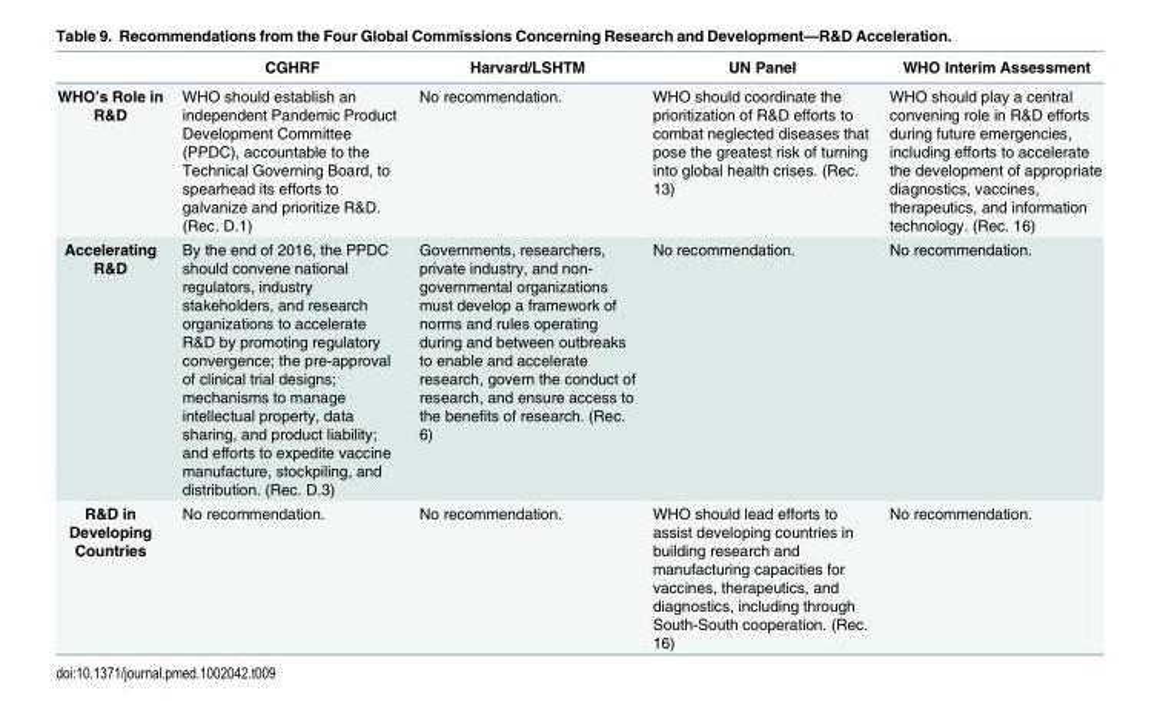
<table><thead><tr><td></td><td>CGHRF</td><td>Harvard/LSHTM</td><td>UN Panel</td><td>WHO Interim Assessment</td></tr></thead><tbody><tr><td>WHO’s Role in R&amp;D</td><td>WHO should establish an independent Pandemic Product Development Committee (PPDC), accountable to the Technical Governing Board, to spearhead its efforts to galvanize and prioritize R&amp;D. (Rec. D.1)</td><td>No recommendation.</td><td>WHO should coordinate the prioritization of R&amp;D efforts to combat neglected diseases that pose the greatest risk of turning into global health crises. (Rec. 13)</td><td>WHO should play a central convening role in R&amp;D efforts during future emergencies, including efforts to accelerate the development of appropriate diagnostics, vaccines, therapeutics, and information technology. (Rec. 16)</td></tr><tr><td>Accelerating R&amp;D</td><td>By the end of 2016, the PPDC should convene national regulators, industry stakeholders, and research organizations to accelerate R&amp;D by promoting regulatory convergence; the pre-approval of clinical trial designs; mechanisms to manage intellectual property, data sharing, and product liability; and efforts to expedite vaccine manufacture, stockpiling, and distribution. (Rec. D.3)</td><td>Governments, researchers, private industry, and non- governmental organizations must develop a framework of norms and rules operating during and between outbreaks to enable and accelerate research, govern the conduct of research, and ensure access to the benefits of research. (Rec. 6)</td><td>No recommendation.</td><td>No recommendation.</td></tr><tr><td>R&amp;D in Developing Countries</td><td>No recommendation.</td><td>No recommendation.</td><td>WHO should lead efforts to assist developing countries in building research and manufacturing capacities for vaccines, therapeutics, and diagnostics, including through South-South cooperation. (Rec. 16)</td><td>No recommendation.</td></tr></tbody></table>